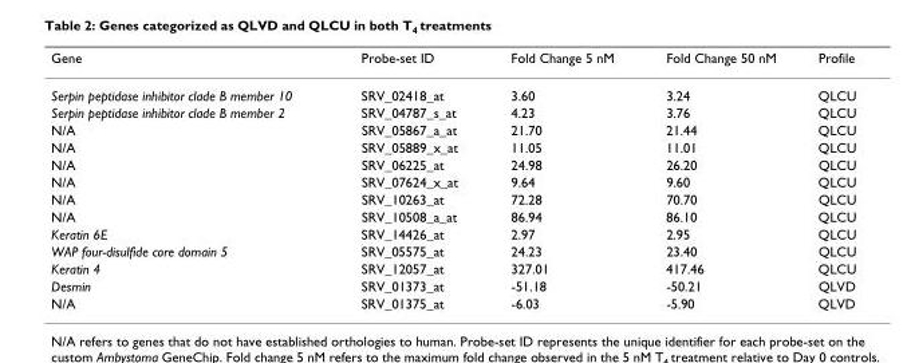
<table><thead><tr><td>Gene</td><td>Probe-set ID</td><td>Fold Change 5 nM</td><td>Fold Change 50 nM</td><td>Profile</td></tr></thead><tbody><tr><td>Serpin peptidase inhibitor clade B member 10</td><td>SRV_02418_at</td><td>3.60</td><td>3.24</td><td>QLCU</td></tr><tr><td>Serpin peptidase inhibitor clade B member 2</td><td>SRV_04787_s_at</td><td>4.23</td><td>3.76</td><td>QLCU</td></tr><tr><td>N/A</td><td>SRV_05867_a_at</td><td>21.70</td><td>21.44</td><td>QLCU</td></tr><tr><td>N/A</td><td>SRV_05889_x_at</td><td>11.05</td><td>11.01</td><td>QLCU</td></tr><tr><td>N/A</td><td>SRV_06225_at</td><td>24.98</td><td>26.20</td><td>QLCU</td></tr><tr><td>N/A</td><td>SRV_07624_x_at</td><td>9.64</td><td>9.60</td><td>QLCU</td></tr><tr><td>N/A</td><td>SRV_10263_at</td><td>72.28</td><td>70.70</td><td>QLCU</td></tr><tr><td>N/A</td><td>SRV_10508_a_at</td><td>86.94</td><td>86.10</td><td>QLCU</td></tr><tr><td>Keratin 6E</td><td>SRV_14426_at</td><td>2.97</td><td>2.95</td><td>QLCU</td></tr><tr><td>WAP four-disulfide core domain 5</td><td>SRV_05575_at</td><td>24.23</td><td>23.40</td><td>QLCU</td></tr><tr><td>Keratin 4</td><td>SRV_12057_at</td><td>327.01</td><td>417.46</td><td>QLCU</td></tr><tr><td>Desmin</td><td>SRV_01373_at</td><td>-51.18</td><td>-50.21</td><td>QLVD</td></tr><tr><td>N/A</td><td>SRV_01375_at</td><td>-6.03</td><td>-5.90</td><td>QLVD</td></tr></tbody></table>